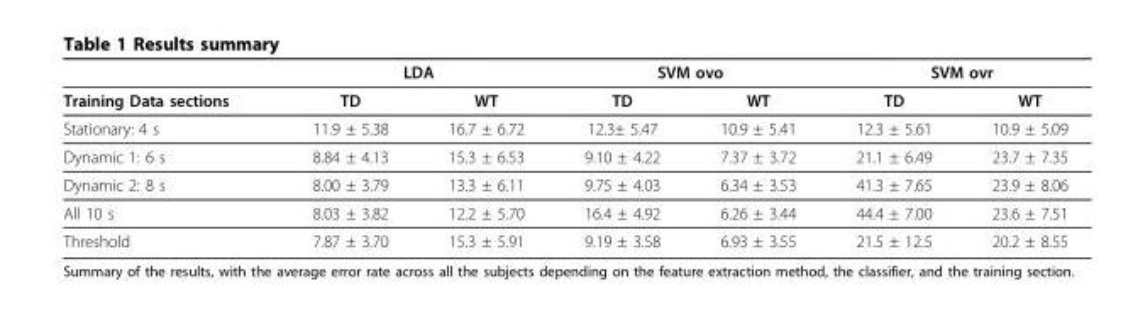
<table><thead><tr><td rowspan="2">Training Data sections</td><td colspan="2">LDA</td><td colspan="2">SVM ovo</td><td colspan="2">SVM ovr</td></tr><tr><td>TD</td><td>WT</td><td>TD</td><td>WT</td><td>TD</td><td>WT</td></tr></thead><tbody><tr><td>Stationary: 4 s</td><td>11.9 ± 5.38</td><td>16.7 ± 6.72</td><td>12.3± 5.47</td><td>10.9 ± 5.41</td><td>12.3 ± 5.61</td><td>10.9 ± 5.09</td></tr><tr><td>Dynamic 1: 6 s</td><td>8.84 ± 4.13</td><td>15.3 ± 6.53</td><td>9.10 ± 4.22</td><td>7.37 ± 3.72</td><td>21.1 ± 6.49</td><td>23.7 ± 7.35</td></tr><tr><td>Dynamic 2: 8 s</td><td>8.00 ± 3.79</td><td>13.3 ± 6.11</td><td>9.75 ± 4.03</td><td>6.34 ± 3.53</td><td>41.3 ± 7.65</td><td>23.9 ± 8.06</td></tr><tr><td>All 10 s</td><td>8.03 ± 3.82</td><td>12.2 ± 5.70</td><td>16.4 ± 4.92</td><td>6.26 ± 3.44</td><td>44.4 ± 7.00</td><td>23.6 ± 7.51</td></tr><tr><td>Threshold</td><td>7.87 ± 3.70</td><td>15.3 ± 5.91</td><td>9.19 ± 3.58</td><td>6.93 ± 3.55</td><td>21.5 ± 12.5</td><td>20.2 ± 8.55</td></tr></tbody></table>